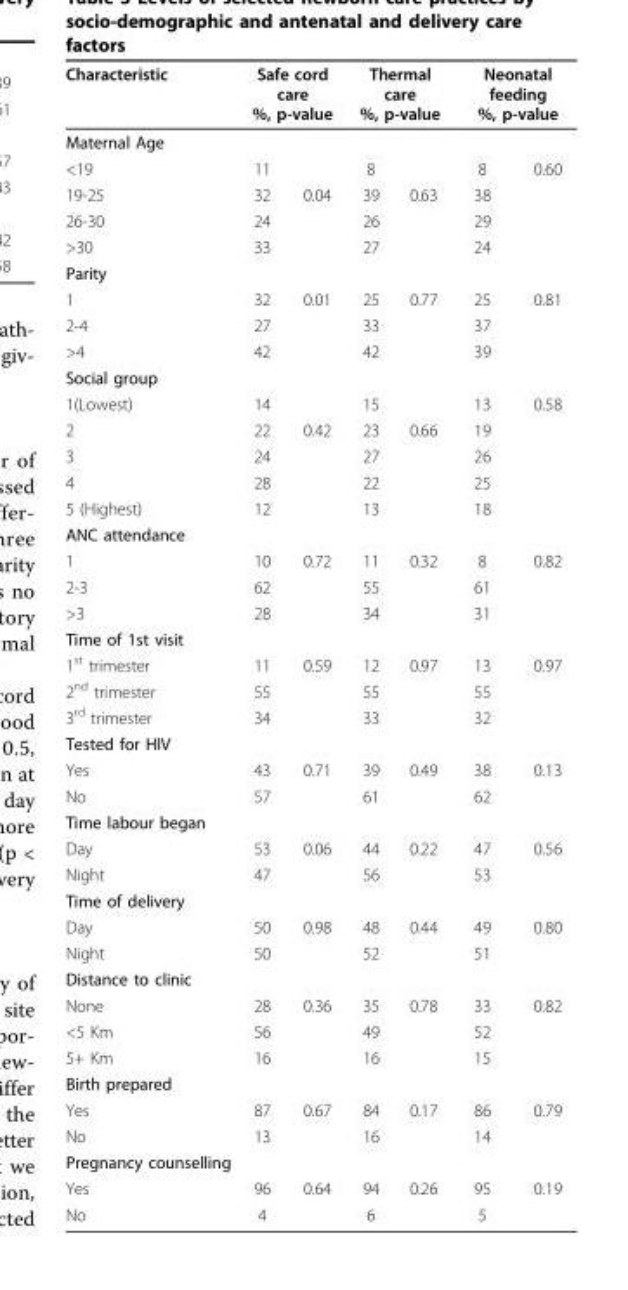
<table><thead><tr><td rowspan="2">Characteristic Maternal Age</td><td colspan="2">Safe cord care %, p-value</td><td colspan="2">Thermal care %, p-value</td><td colspan="2">Neonatal feeding %, p-value</td></tr><tr><td></td><td></td><td></td><td></td><td></td><td></td></tr></thead><tbody><tr><td>&lt;19</td><td>11</td><td></td><td>8</td><td></td><td>8</td><td>0.60</td></tr><tr><td>19-25</td><td>32</td><td>0.04</td><td>39</td><td>0.63</td><td>38</td><td></td></tr><tr><td>26-30</td><td>24</td><td></td><td>26</td><td></td><td>29</td><td></td></tr><tr><td>&gt;30</td><td>33</td><td></td><td>27</td><td></td><td>24</td><td></td></tr><tr><td colspan="7">Parity</td></tr><tr><td>1</td><td>32</td><td>0.01</td><td>25</td><td>0.77</td><td>25</td><td>0.81</td></tr><tr><td>2-4</td><td>27</td><td></td><td>33</td><td></td><td>37</td><td></td></tr><tr><td>&gt;4</td><td>42</td><td></td><td>42</td><td></td><td>39</td><td></td></tr><tr><td colspan="7">Social group</td></tr><tr><td>1(Lowest)</td><td>14</td><td></td><td>15</td><td></td><td>13</td><td>0.58</td></tr><tr><td>2</td><td>22</td><td>0.42</td><td>23</td><td>0.66</td><td>19</td><td></td></tr><tr><td>3</td><td>24</td><td></td><td>27</td><td></td><td>26</td><td></td></tr><tr><td>4</td><td>28</td><td></td><td>22</td><td></td><td>25</td><td></td></tr><tr><td>5 (Highest)</td><td>12</td><td></td><td>13</td><td></td><td>18</td><td></td></tr><tr><td colspan="7">ANC attendance</td></tr><tr><td>1</td><td>10</td><td>0.72</td><td>11</td><td>0.32</td><td>8</td><td>0.82</td></tr><tr><td>2-3</td><td>62</td><td></td><td>55</td><td></td><td>61</td><td></td></tr><tr><td>&gt;3</td><td>28</td><td></td><td>34</td><td></td><td>31</td><td></td></tr><tr><td colspan="7">Time of 1st visit</td></tr><tr><td>1<sup>st</sup> trimester</td><td>11</td><td>0.59</td><td>12</td><td>0.97</td><td>13</td><td>0.97</td></tr><tr><td>2<sup>nd</sup> trimester</td><td>55</td><td></td><td>55</td><td></td><td>55</td><td></td></tr><tr><td>3<sup>rd</sup> trimester</td><td>34</td><td></td><td>33</td><td></td><td>32</td><td></td></tr><tr><td colspan="7">Tested for HIV</td></tr><tr><td>Yes</td><td>43</td><td>0.71</td><td>39</td><td>0.49</td><td>38</td><td>0.13</td></tr><tr><td>No</td><td>57</td><td></td><td>61</td><td></td><td>62</td><td></td></tr><tr><td colspan="7">Time labour began</td></tr><tr><td>Day</td><td>53</td><td>0.06</td><td>44</td><td>0.22</td><td>47</td><td>0.56</td></tr><tr><td>Night</td><td>47</td><td></td><td>56</td><td></td><td>53</td><td></td></tr><tr><td colspan="7">Time of delivery</td></tr><tr><td>Day</td><td>50</td><td>0.98</td><td>48</td><td>0.44</td><td>49</td><td>0.80</td></tr><tr><td>Night</td><td>50</td><td></td><td>52</td><td></td><td>51</td><td></td></tr><tr><td colspan="7">Distance to clinic</td></tr><tr><td>None</td><td>28</td><td>0.36</td><td>35</td><td>0.78</td><td>33</td><td>0.82</td></tr><tr><td>&lt;5 Km</td><td>56</td><td></td><td>49</td><td></td><td>52</td><td></td></tr><tr><td>5+ Km</td><td>16</td><td></td><td>16</td><td></td><td>15</td><td></td></tr><tr><td colspan="7">Birth prepared</td></tr><tr><td>Yes</td><td>87</td><td>0.67</td><td>84</td><td>0.17</td><td>86</td><td>0.79</td></tr><tr><td>No</td><td>13</td><td></td><td>16</td><td></td><td>14</td><td></td></tr><tr><td colspan="7">Pregnancy counselling</td></tr><tr><td>Yes</td><td>96</td><td>0.64</td><td>94</td><td>0.26</td><td>95</td><td>0.19</td></tr><tr><td>No</td><td>4</td><td></td><td>6</td><td></td><td>5</td><td></td></tr></tbody></table>